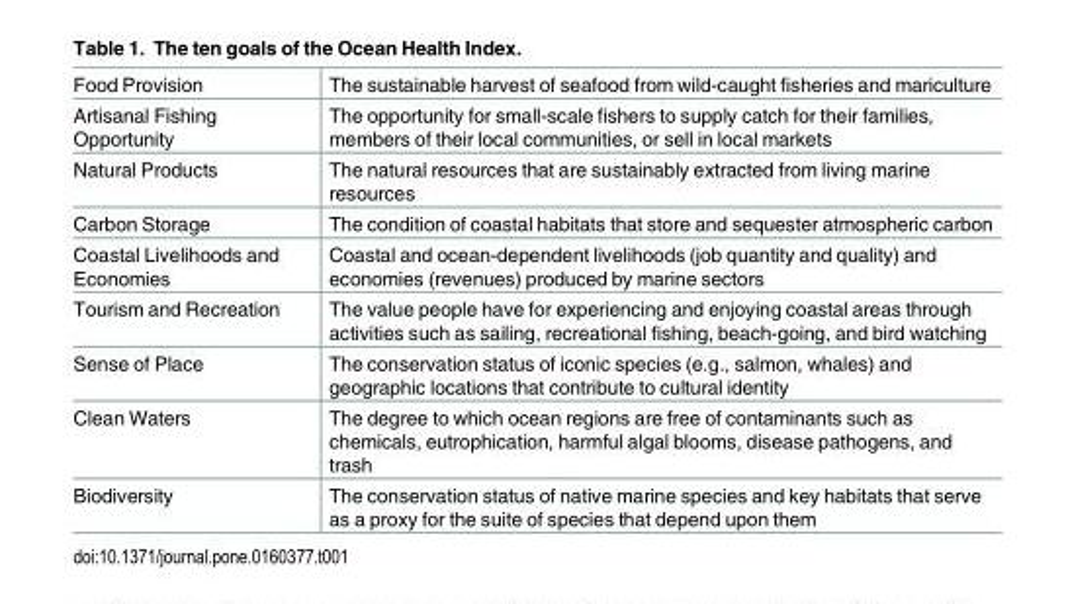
<table><tbody><tr><td>Food Provision</td><td>The sustainable harvest of seafood from wild-caught fisheries and mariculture</td></tr><tr><td>Artisanal Fishing Opportunity</td><td>The opportunity for small-scale fishers to supply catch for their families, members of their local communities, or sell in local markets</td></tr><tr><td>Natural Products</td><td>The natural resources that are sustainably extracted from living marine resources</td></tr><tr><td>Carbon Storage</td><td>The condition of coastal habitats that store and sequester atmospheric carbon</td></tr><tr><td>Coastal Livelihoods and Economies</td><td>Coastal and ocean-dependent livelihoods (job quantity and quality) and economies (revenues) produced by marine sectors</td></tr><tr><td>Tourism and Recreation</td><td>The value people have for experiencing and enjoying coastal areas through activities such as sailing, recreational fishing, beach-going, and bird watching</td></tr><tr><td>Sense of Place</td><td>The conservation status of iconic species (e.g., salmon, whales) and geographic locations that contribute to cultural identity</td></tr><tr><td>Clean Waters</td><td>The degree to which ocean regions are free of contaminants such as chemicals, eutrophication, harmful algal blooms, disease pathogens, and trash</td></tr><tr><td>Biodiversity</td><td>The conservation status of native marine species and key habitats that serve as a proxy for the suite of species that depend upon them</td></tr></tbody></table>